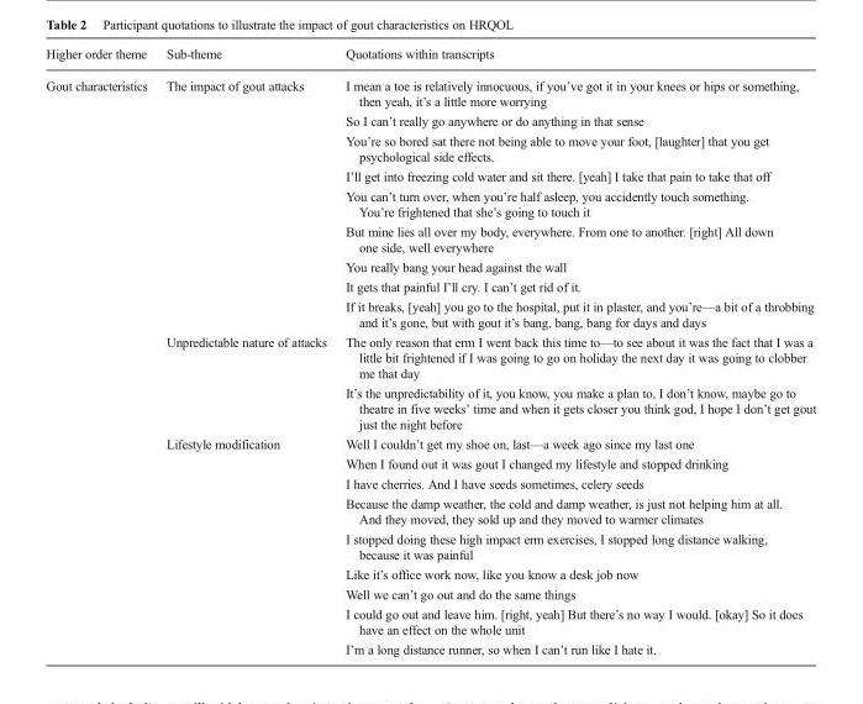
<table><thead><tr><td>Higher order theme</td><td>Sub-theme</td><td>Quotations within transcripts</td></tr></thead><tbody><tr><td rowspan="20">Gout characteristics</td><td rowspan="9">The impact of gout attacks</td><td>I mean a toe is relatively innocuous, if you’ve got it in your knees or hips or something, then yeah, it’s a little more worrying</td></tr><tr><td>So I can’t really go anywhere or do anything in that sense</td></tr><tr><td>You’re so bored sat there not being able to move your foot, [laughter] that you get psychological side effects.</td></tr><tr><td>I’ll get into freezing cold water and sit there. [yeah] I take that pain to take that off</td></tr><tr><td>You can’t turn over, when you’re half asleep, you accidently touch something. You’re frightened that she’s going to touch it</td></tr><tr><td>But mine lies all over my body, everywhere. From one to another. [right] All down one side, well everywhere</td></tr><tr><td>You really bang your head against the wall</td></tr><tr><td>It gets that painful I’ll cry. I can’t get rid of it.</td></tr><tr><td>If it breaks, [yeah] you go to the hospital, put it in plaster, and you’re—a bit of a throbbing and it’s gone, but with gout it’s bang, bang, bang for days and days</td></tr><tr><td rowspan="2">Unpredictable nature of attacks</td><td>The only reason that erm I went back this time to—to see about it was the fact that I was a little bit frightened if I was going to go on holiday the next day it was going to clobber me that day</td></tr><tr><td>It’s the unpredictability of it, you know, you make a plan to, I don’t know, maybe go to theatre in five weeks’ time and when it gets closer you think god, I hope I don’t get gout just the night before</td></tr><tr><td rowspan="9">Lifestyle modification</td><td>Well I couldn’t get my shoe on, last—a week ago since my last one</td></tr><tr><td>When I found out it was gout I changed my lifestyle and stopped drinking</td></tr><tr><td>I have cherries. And I have seeds sometimes, celery seeds</td></tr><tr><td>Because the damp weather, the cold and damp weather, is just not helping him at all. And they moved, they sold up and they moved to warmer climates</td></tr><tr><td>I stopped doing these high impact erm exercises, I stopped long distance walking, because it was painful</td></tr><tr><td>Like it’s office work now, like you know a desk job now</td></tr><tr><td>Well we can’t go out and do the same things</td></tr><tr><td>I could go out and leave him. [right, yeah] But there’s no way I would. [okay] So it does have an effect on the whole unit</td></tr><tr><td>I’m a long distance runner, so when I can’t run like I hate it.</td></tr></tbody></table>